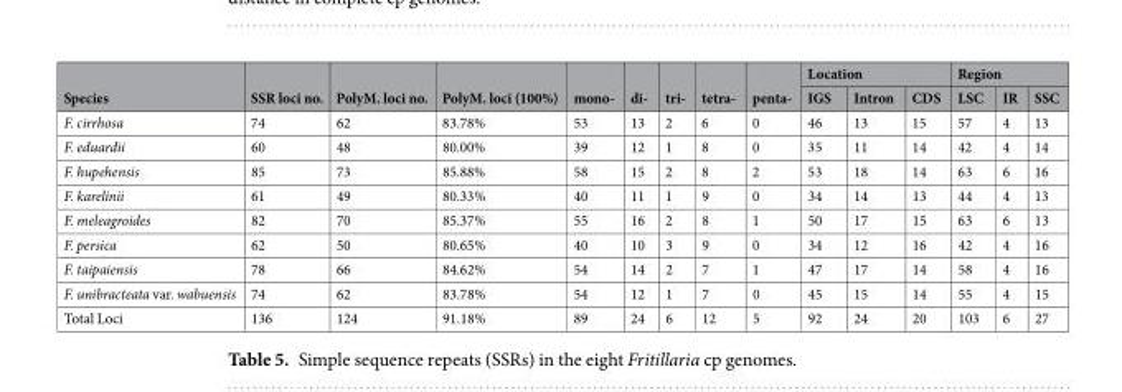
<table><thead><tr><td rowspan="2">Species</td><td rowspan="2">SSR loci no.</td><td rowspan="2">PolyM. loci no.</td><td rowspan="2">PolyM. loci (100%)</td><td rowspan="2">mono-</td><td rowspan="2">di-</td><td rowspan="2">tri-</td><td rowspan="2">tetra-</td><td rowspan="2">penta-</td><td colspan="3">Location</td><td colspan="3">Region</td></tr><tr><td>IGS</td><td>Intron</td><td>CDS</td><td>LSC</td><td>IR</td><td>SSC</td></tr></thead><tbody><tr><td>F. cirrhosa</td><td>74</td><td>62</td><td>83.78%</td><td>53</td><td>13</td><td>2</td><td>6</td><td>0</td><td>46</td><td>13</td><td>15</td><td>57</td><td>4</td><td>13</td></tr><tr><td>F. eduardii</td><td>60</td><td>48</td><td>80.00%</td><td>39</td><td>12</td><td>1</td><td>8</td><td>0</td><td>35</td><td>11</td><td>14</td><td>42</td><td>4</td><td>14</td></tr><tr><td>F. hupehensis</td><td>85</td><td>73</td><td>85.88%</td><td>58</td><td>15</td><td>2</td><td>8</td><td>2</td><td>53</td><td>18</td><td>14</td><td>63</td><td>6</td><td>16</td></tr><tr><td>F. karelinii</td><td>61</td><td>49</td><td>80.33%</td><td>40</td><td>11</td><td>1</td><td>9</td><td>0</td><td>34</td><td>14</td><td>13</td><td>44</td><td>4</td><td>13</td></tr><tr><td>F. meleagroides</td><td>82</td><td>70</td><td>85.37%</td><td>55</td><td>16</td><td>2</td><td>8</td><td>1</td><td>50</td><td>17</td><td>15</td><td>63</td><td>6</td><td>13</td></tr><tr><td>F. persica</td><td>62</td><td>50</td><td>80.65%</td><td>40</td><td>10</td><td>3</td><td>9</td><td>0</td><td>34</td><td>12</td><td>16</td><td>42</td><td>4</td><td>16</td></tr><tr><td>F. taipaiensis</td><td>78</td><td>66</td><td>84.62%</td><td>54</td><td>14</td><td>2</td><td>7</td><td>1</td><td>47</td><td>17</td><td>14</td><td>58</td><td>4</td><td>16</td></tr><tr><td>F. unibracteata var. wabuensis</td><td>74</td><td>62</td><td>83.78%</td><td>54</td><td>12</td><td>1</td><td>7</td><td>0</td><td>45</td><td>15</td><td>14</td><td>55</td><td>4</td><td>15</td></tr><tr><td>Total Loci</td><td>136</td><td>124</td><td>91.18%</td><td>89</td><td>24</td><td>6</td><td>12</td><td>5</td><td>92</td><td>24</td><td>20</td><td>103</td><td>6</td><td>27</td></tr></tbody></table>